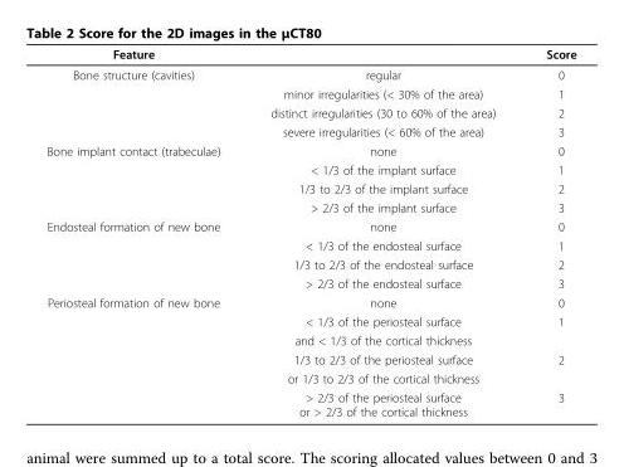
<table><thead><tr><td>Feature</td><td></td><td>Score</td></tr></thead><tbody><tr><td rowspan="4">Bone structure (cavities)</td><td>regular</td><td>0</td></tr><tr><td>minor irregularities (&lt; 30% of the area)</td><td>1</td></tr><tr><td>distinct irregularities (30 to 60% of the area)</td><td>2</td></tr><tr><td>severe irregularities (&lt; 60% of the area)</td><td>3</td></tr><tr><td rowspan="4">Bone implant contact (trabeculae)</td><td>none</td><td>0</td></tr><tr><td>&lt; 1/3 of the implant surface</td><td>1</td></tr><tr><td>1/3 to 2/3 of the implant surface</td><td>2</td></tr><tr><td>&gt; 2/3 of the implant surface</td><td>3</td></tr><tr><td rowspan="4">Endosteal formation of new bone</td><td>none</td><td>0</td></tr><tr><td>&lt; 1/3 of the endosteal surface</td><td>1</td></tr><tr><td>1/3 to 2/3 of the endosteal surface</td><td>2</td></tr><tr><td>&gt; 2/3 of the endosteal surface</td><td>3</td></tr><tr><td rowspan="6">Periosteal formation of new bone</td><td>none</td><td>0</td></tr><tr><td>&lt; 1/3 of the periosteal surface</td><td>1</td></tr><tr><td>and &lt; 1/3 of the cortical thickness</td><td></td></tr><tr><td>1/3 to 2/3 of the periosteal surface</td><td>2</td></tr><tr><td>or 1/3 to 2/3 of the cortical thickness</td><td></td></tr><tr><td>&gt; 2/3 of the periosteal surface or &gt; 2/3 of the cortical thickness</td><td>3</td></tr></tbody></table>